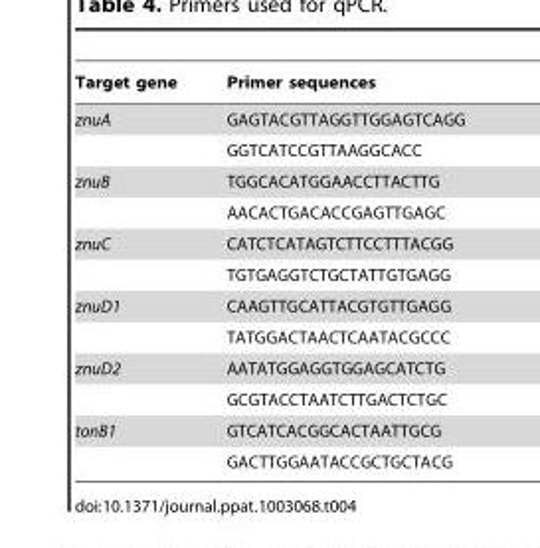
<table><thead><tr><td>Target gene</td><td>Primer sequences</td></tr></thead><tbody><tr><td rowspan="2">znuA</td><td>GAGTACGTTAGGTTGGAGTCAGG</td></tr><tr><td>GGTCATCCGTTAAGGCACC</td></tr><tr><td rowspan="2">znuB</td><td>TGGCACATGGAACCTTACTTG</td></tr><tr><td>AACACTGACACCGAGTTGAGC</td></tr><tr><td rowspan="2">znuC</td><td>CATCTCATAGTCTTCCTTTACGG</td></tr><tr><td>TGTGAGGTCTGCTATTGTGAGG</td></tr><tr><td rowspan="2">znuD1</td><td>CAAGTTGCATTACGTGTTGAGG</td></tr><tr><td>TATGGACTAACTCAATACGCCC</td></tr><tr><td rowspan="2">znuD2</td><td>AATATGGAGGTGGAGCATCTG</td></tr><tr><td>GCGTACCTAATCTTGACTCTGC</td></tr><tr><td rowspan="2">tonB1</td><td>GTCATCACGGCACTAATTGCG</td></tr><tr><td>GACTTGGAATACCGCTGCTACG</td></tr></tbody></table>